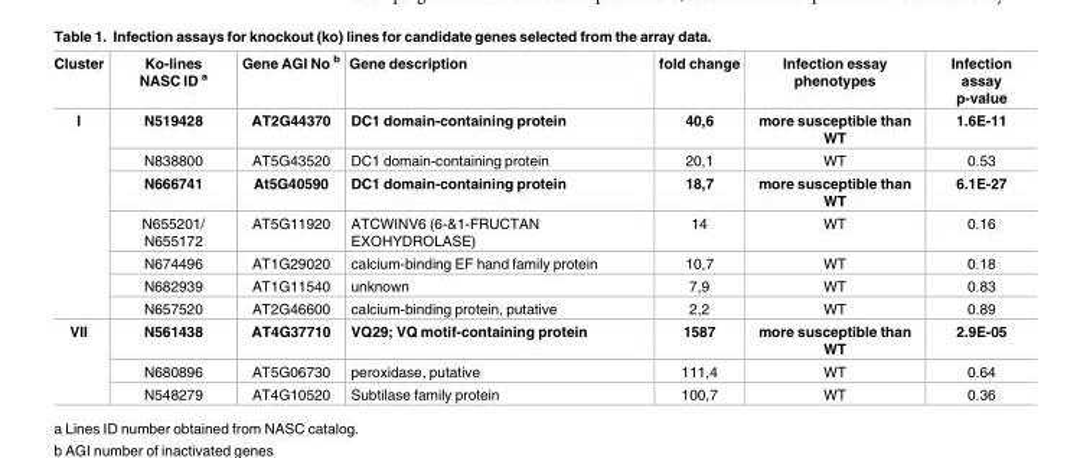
<table><thead><tr><td>Cluster</td><td>Ko-lines NASC ID <sup>a</sup></td><td>Gene AGI No <sup>b</sup></td><td>Gene description</td><td>fold change</td><td>Infection essay phenotypes</td><td>Infection assay p-value</td></tr></thead><tbody><tr><td rowspan="7">I</td><td>N519428</td><td>AT2G44370</td><td>DC1 domain-containing protein</td><td>40,6</td><td>more susceptible than WT</td><td>1.6E-11</td></tr><tr><td>N838800</td><td>AT5G43520</td><td>DC1 domain-containing protein</td><td>20,1</td><td>WT</td><td>0.53</td></tr><tr><td>N666741</td><td>At5G40590</td><td>DC1 domain-containing protein</td><td>18,7</td><td>more susceptible than WT</td><td>6.1E-27</td></tr><tr><td>N655201/ N655172</td><td>AT5G11920</td><td>ATCWINV6 (6-&amp;1-FRUCTAN EXOHYDROLASE)</td><td>14</td><td>WT</td><td>0.16</td></tr><tr><td>N674496</td><td>AT1G29020</td><td>calcium-binding EF hand family protein</td><td>10,7</td><td>WT</td><td>0.18</td></tr><tr><td>N682939</td><td>AT1G11540</td><td>unknown</td><td>7,9</td><td>WT</td><td>0.83</td></tr><tr><td>N657520</td><td>AT2G46600</td><td>calcium-binding protein, putative</td><td>2,2</td><td>WT</td><td>0.89</td></tr><tr><td rowspan="3">VII</td><td>N561438</td><td>AT4G37710</td><td>VQ29; VQ motif-containing protein</td><td>1587</td><td>more susceptible than WT</td><td>2.9E-05</td></tr><tr><td>N680896</td><td>AT5G06730</td><td>peroxidase, putative</td><td>111,4</td><td>WT</td><td>0.64</td></tr><tr><td>N548279</td><td>AT4G10520</td><td>Subtilase family protein</td><td>100,7</td><td>WT</td><td>0.36</td></tr></tbody></table>